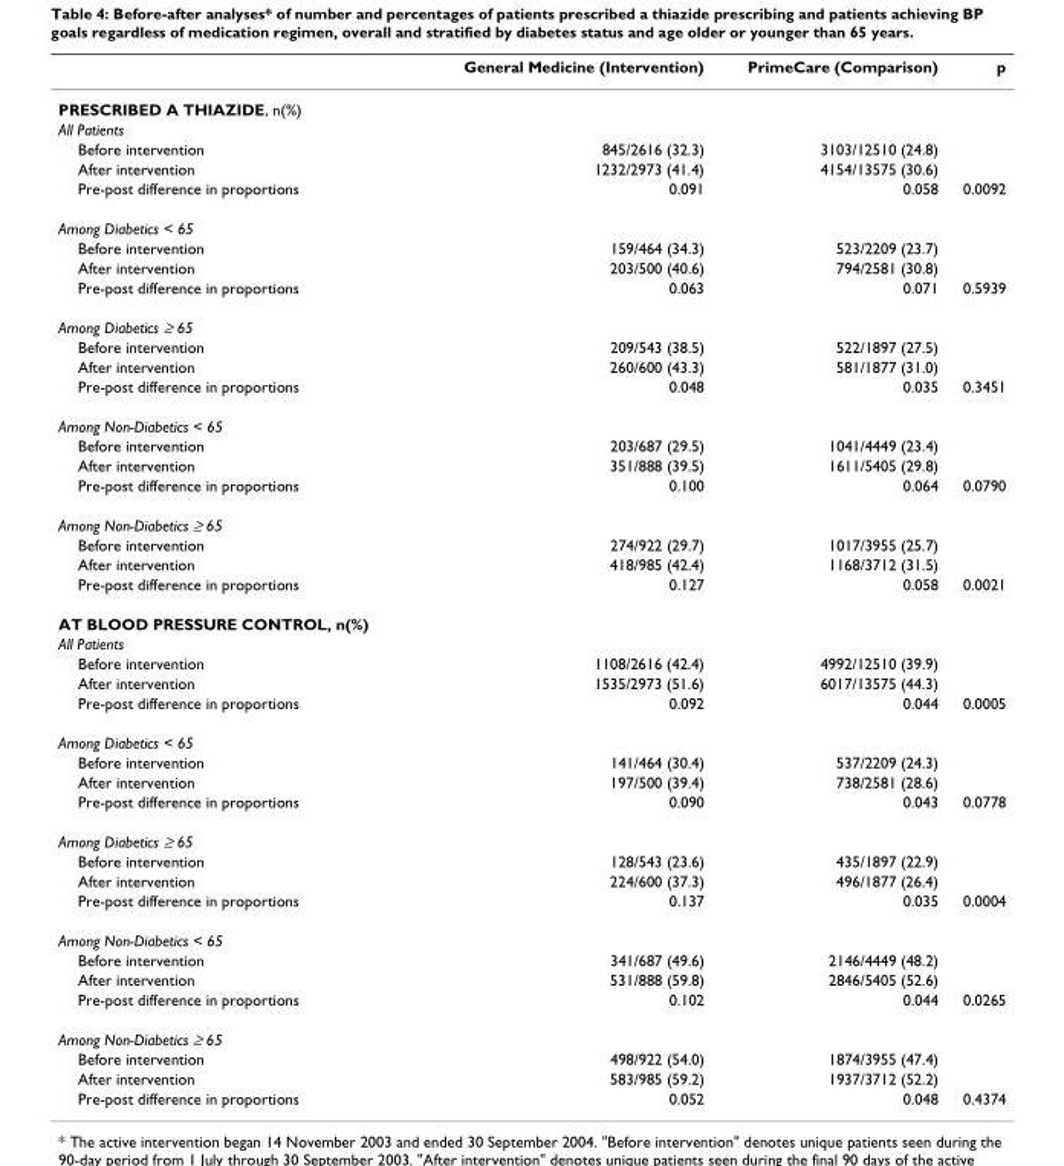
<table><thead><tr><td></td><td>General Medicine (Intervention)</td><td>PrimeCare (Comparison)</td><td>p</td></tr></thead><tbody><tr><td colspan="4">PRESCRIBED A THIAZIDE, n(%)</td></tr><tr><td colspan="4">All Patients</td></tr><tr><td>Before intervention</td><td>845/2616 (32.3)</td><td>3103/12510 (24.8)</td><td></td></tr><tr><td>After intervention</td><td>1232/2973 (41.4)</td><td>4154/13575 (30.6)</td><td></td></tr><tr><td>Pre-post difference in proportions</td><td>0.091</td><td>0.058</td><td>0.0092</td></tr><tr><td colspan="4">Among Diabetics &lt; 65</td></tr><tr><td>Before intervention</td><td>159/464 (34.3)</td><td>523/2209 (23.7)</td><td></td></tr><tr><td>After intervention</td><td>203/500 (40.6)</td><td>794/2581 (30.8)</td><td></td></tr><tr><td>Pre-post difference in proportions</td><td>0.063</td><td>0.071</td><td>0.5939</td></tr><tr><td colspan="4">Among Diabetics ≥ 65</td></tr><tr><td>Before intervention</td><td>209/543 (38.5)</td><td>522/1897 (27.5)</td><td></td></tr><tr><td>After intervention</td><td>260/600 (43.3)</td><td>581/1877 (31.0)</td><td></td></tr><tr><td>Pre-post difference in proportions</td><td>0.048</td><td>0.035</td><td>0.3451</td></tr><tr><td colspan="4">Among Non-Diabetics &lt; 65</td></tr><tr><td>Before intervention</td><td>203/687 (29.5)</td><td>1041/4449 (23.4)</td><td></td></tr><tr><td>After intervention</td><td>351/888 (39.5)</td><td>1611/5405 (29.8)</td><td></td></tr><tr><td>Pre-post difference in proportions</td><td>0.100</td><td>0.064</td><td>0.0790</td></tr><tr><td colspan="4">Among Non-Diabetics ≥ 65</td></tr><tr><td>Before intervention</td><td>274/922 (29.7)</td><td>1017/3955 (25.7)</td><td></td></tr><tr><td>After intervention</td><td>418/985 (42.4)</td><td>1168/3712 (31.5)</td><td></td></tr><tr><td>Pre-post difference in proportions</td><td>0.127</td><td>0.058</td><td>0.0021</td></tr><tr><td colspan="4">AT BLOOD PRESSURE CONTROL, n(%)</td></tr><tr><td colspan="4">All Patients</td></tr><tr><td>Before intervention</td><td>1108/2616 (42.4)</td><td>4992/12510 (39.9)</td><td></td></tr><tr><td>After intervention</td><td>1535/2973 (51.6)</td><td>6017/13575 (44.3)</td><td></td></tr><tr><td>Pre-post difference in proportions</td><td>0.092</td><td>0.044</td><td>0.0005</td></tr><tr><td colspan="4">Among Diabetics &lt; 65</td></tr><tr><td>Before intervention</td><td>141/464 (30.4)</td><td>537/2209 (24.3)</td><td></td></tr><tr><td>After intervention</td><td>197/500 (39.4)</td><td>738/2581 (28.6)</td><td></td></tr><tr><td>Pre-post difference in proportions</td><td>0.090</td><td>0.043</td><td>0.0778</td></tr><tr><td colspan="4">Among Diabetics ≥ 65</td></tr><tr><td>Before intervention</td><td>128/543 (23.6)</td><td>435/1897 (22.9)</td><td></td></tr><tr><td>After intervention</td><td>224/600 (37.3)</td><td>496/1877 (26.4)</td><td></td></tr><tr><td>Pre-post difference in proportions</td><td>0.137</td><td>0.035</td><td>0.0004</td></tr><tr><td colspan="4">Among Non-Diabetics &lt; 65</td></tr><tr><td>Before intervention</td><td>341/687 (49.6)</td><td>2146/4449 (48.2)</td><td></td></tr><tr><td>After intervention</td><td>531/888 (59.8)</td><td>2846/5405 (52.6)</td><td></td></tr><tr><td>Pre-post difference in proportions</td><td>0.102</td><td>0.044</td><td>0.0265</td></tr><tr><td colspan="4">Among Non-Diabetics ≥ 65</td></tr><tr><td>Before intervention</td><td>498/922 (54.0)</td><td>1874/3955 (47.4)</td><td></td></tr><tr><td>After intervention</td><td>583/985 (59.2)</td><td>1937/3712 (52.2)</td><td></td></tr><tr><td>Pre-post difference in proportions</td><td>0.052</td><td>0.048</td><td>0.4374</td></tr></tbody></table>